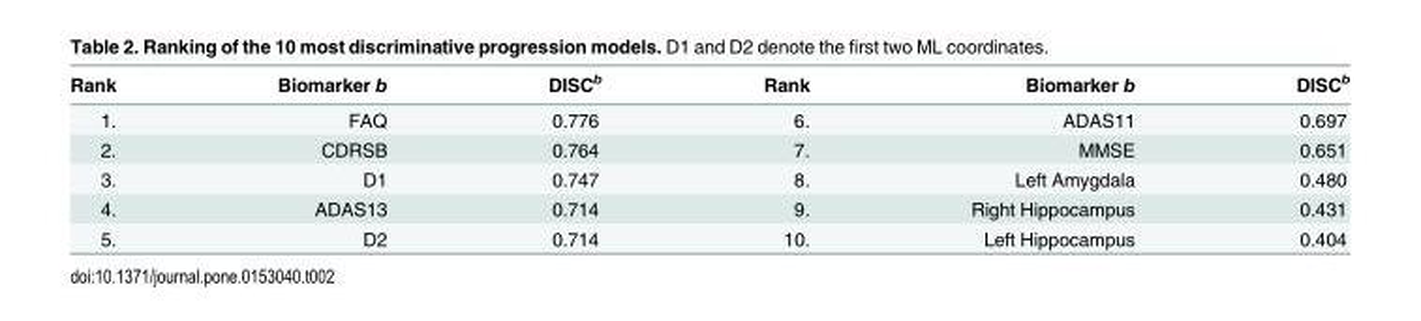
<table><thead><tr><td>Rank</td><td>Biomarker b</td><td>DISC<sup>b</sup></td><td>Rank</td><td>Biomarker b</td><td>DISC<sup>b</sup></td></tr></thead><tbody><tr><td>1.</td><td>FAQ</td><td>0.776</td><td>6.</td><td>ADAS11</td><td>0.697</td></tr><tr><td>2.</td><td>CDRSB</td><td>0.764</td><td>7.</td><td>MMSE</td><td>0.651</td></tr><tr><td>3.</td><td>D1</td><td>0.747</td><td>8.</td><td>Left Amygdala</td><td>0.480</td></tr><tr><td>4.</td><td>ADAS13</td><td>0.714</td><td>9.</td><td>Right Hippocampus</td><td>0.431</td></tr><tr><td>5.</td><td>D2</td><td>0.714</td><td>10.</td><td>Left Hippocampus</td><td>0.404</td></tr></tbody></table>